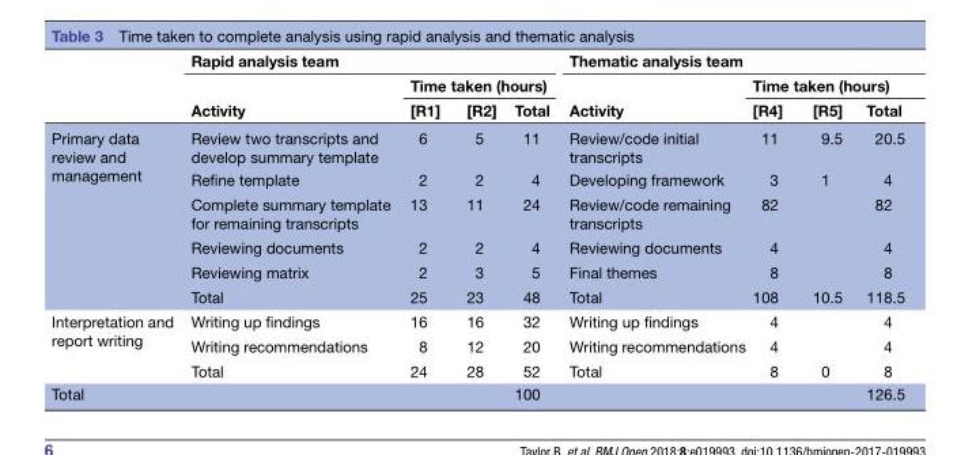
<table><thead><tr><td rowspan="3"></td><td colspan="4">Rapid analysis team</td><td colspan="4">Thematic analysis team</td></tr><tr><td rowspan="2">Activity</td><td colspan="3">Time taken (hours)</td><td rowspan="2">Activity</td><td colspan="3">Time taken (hours)</td></tr><tr><td>[R1]</td><td>[R2]</td><td>Total</td><td>[R4]</td><td>[R5]</td><td>Total</td></tr></thead><tbody><tr><td rowspan="6">Primary data review and management</td><td>Review two transcripts and develop summary template</td><td>6</td><td>5</td><td>11</td><td>Review/code initial transcripts</td><td>11</td><td>9.5</td><td>20.5</td></tr><tr><td>Refine template</td><td>2</td><td>2</td><td>4</td><td>Developing framework</td><td>3</td><td>1</td><td>4</td></tr><tr><td>Complete summary template for remaining transcripts</td><td>13</td><td>11</td><td>24</td><td>Review/code remaining transcripts</td><td>82</td><td></td><td>82</td></tr><tr><td>Reviewing documents</td><td>2</td><td>2</td><td>4</td><td>Reviewing documents</td><td>4</td><td></td><td>4</td></tr><tr><td>Reviewing matrix</td><td>2</td><td>3</td><td>5</td><td>Final themes</td><td>8</td><td></td><td>8</td></tr><tr><td>Total</td><td>25</td><td>23</td><td>48</td><td>Total</td><td>108</td><td>10.5</td><td>118.5</td></tr><tr><td rowspan="3">Interpretation and report writing</td><td>Writing up findings</td><td>16</td><td>16</td><td>32</td><td>Writing up findings</td><td>4</td><td></td><td>4</td></tr><tr><td>Writing recommendations</td><td>8</td><td>12</td><td>20</td><td>Writing recommendations</td><td>4</td><td></td><td>4</td></tr><tr><td>Total</td><td>24</td><td>28</td><td>52</td><td>Total</td><td>8</td><td>0</td><td>8</td></tr><tr><td>Total</td><td></td><td></td><td></td><td>100</td><td></td><td></td><td></td><td>126.5</td></tr></tbody></table>